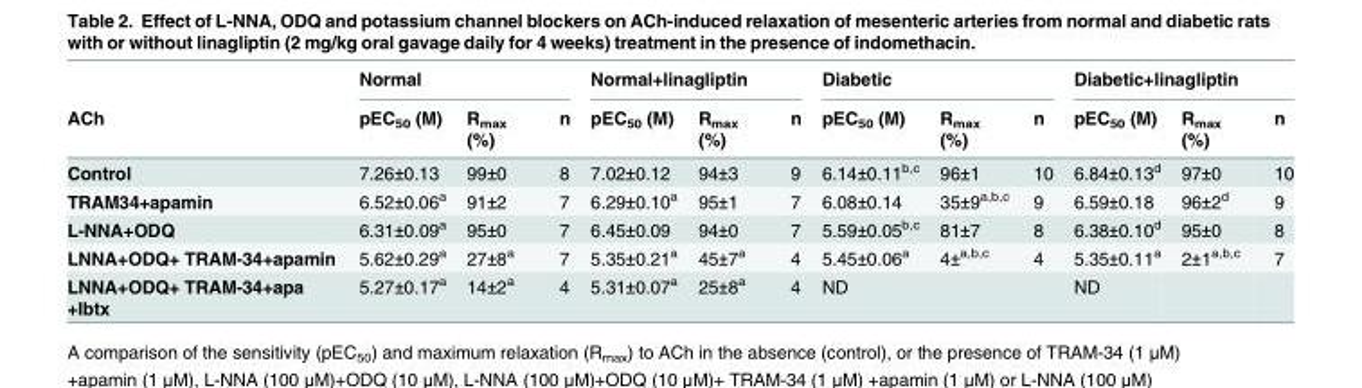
<table><thead><tr><td rowspan="2">ACh</td><td colspan="3">Normal</td><td colspan="3">Normal+linagliptin</td><td colspan="3">Diabetic</td><td colspan="3">Diabetic+linagliptin</td></tr><tr><td>pEC<sub>50</sub> (M)</td><td>R<sub>max</sub> (%)</td><td>n</td><td>pEC<sub>50</sub> (M)</td><td>R<sub>max</sub> (%)</td><td>n</td><td>pEC<sub>50</sub> (M)</td><td>R<sub>max</sub> (%)</td><td>n</td><td>pEC<sub>50</sub> (M)</td><td>R<sub>max</sub> (%)</td><td>n</td></tr></thead><tbody><tr><td>Control</td><td>7.26±0.13</td><td>99±0</td><td>8</td><td>7.02±0.12</td><td>94±3</td><td>9</td><td>6.14±0.11<sup>b,c</sup></td><td>96±1</td><td>10</td><td>6.84±0.13<sup>d</sup></td><td>97±0</td><td>10</td></tr><tr><td>TRAM34+apamin</td><td>6.52±0.06<sup>a</sup></td><td>91±2</td><td>7</td><td>6.29±0.10<sup>a</sup></td><td>95±1</td><td>7</td><td>6.08±0.14</td><td>35±9<sup>a,b,c</sup></td><td>9</td><td>6.59±0.18</td><td>96±2<sup>d</sup></td><td>9</td></tr><tr><td>L-NNA+ODQ</td><td>6.31±0.09<sup>a</sup></td><td>95±0</td><td>7</td><td>6.45±0.09</td><td>94±0</td><td>7</td><td>5.59±0.05<sup>b,c</sup></td><td>81±7</td><td>8</td><td>6.38±0.10<sup>d</sup></td><td>95±0</td><td>8</td></tr><tr><td>LNNA+ODQ+ TRAM-34+apamin</td><td>5.62±0.29<sup>a</sup></td><td>27±8<sup>a</sup></td><td>7</td><td>5.35±0.21<sup>a</sup></td><td>45±7<sup>a</sup></td><td>4</td><td>5.45±0.06<sup>a</sup></td><td>4±<sup>a,b,c</sup></td><td>4</td><td>5.35±0.11<sup>a</sup></td><td>2±1<sup>a,b,c</sup></td><td>7</td></tr><tr><td>LNNA+ODQ+ TRAM-34+apa +Ibtx</td><td>5.27±0.17<sup>a</sup></td><td>14±2<sup>a</sup></td><td>4</td><td>5.31±0.07<sup>a</sup></td><td>25±8<sup>a</sup></td><td>4</td><td>ND</td><td></td><td></td><td>ND</td><td></td><td></td></tr></tbody></table>